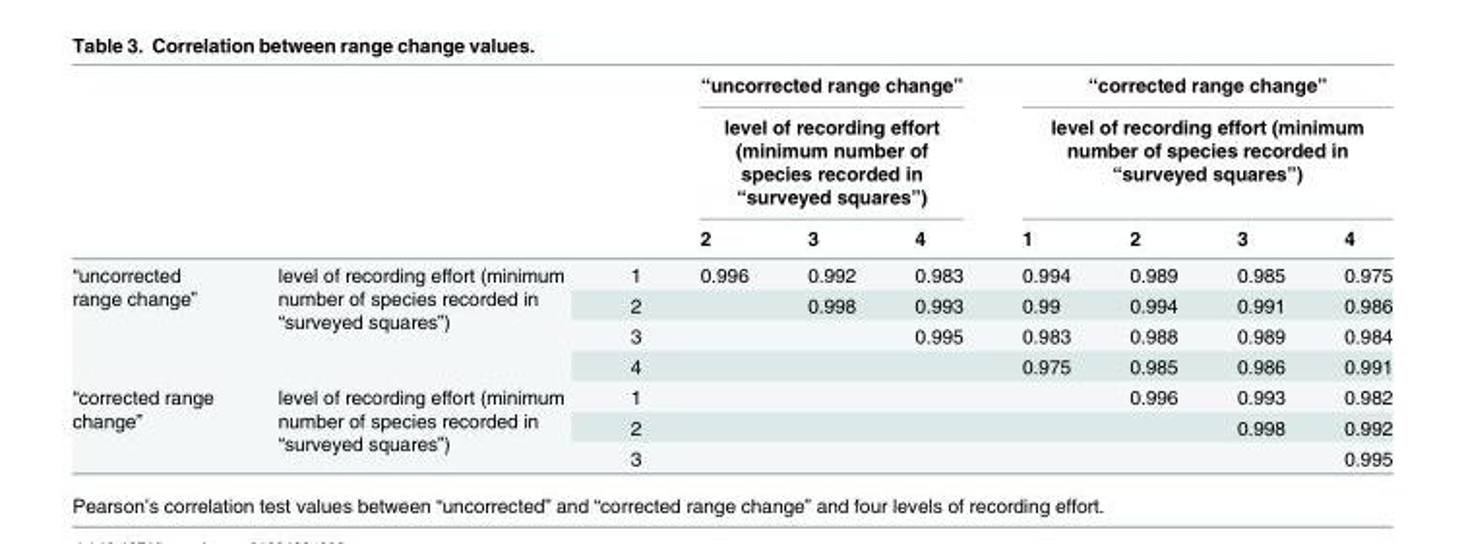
<table><thead><tr><td rowspan="3"></td><td rowspan="3"></td><td rowspan="3"></td><td rowspan="2" colspan="3">“uncorrected range change” level of recording effort (minimum number of species recorded in “surveyed squares”)</td><td rowspan="2" colspan="4">“corrected range change” level of recording effort (minimum number of species recorded in “surveyed squares”)</td></tr><tr></tr><tr><td>2</td><td>3</td><td>4</td><td>1</td><td>2</td><td>3</td><td>4</td></tr></thead><tbody><tr><td rowspan="4">“uncorrected range change”</td><td rowspan="4">level of recording effort (minimum number of species recorded in “surveyed squares”)</td><td>1</td><td>0.996</td><td>0.992</td><td>0.983</td><td>0.994</td><td>0.989</td><td>0.985</td><td>0.975</td></tr><tr><td>2</td><td></td><td>0.998</td><td>0.993</td><td>0.99</td><td>0.994</td><td>0.991</td><td>0.986</td></tr><tr><td>3</td><td></td><td></td><td>0.995</td><td>0.983</td><td>0.988</td><td>0.989</td><td>0.984</td></tr><tr><td>4</td><td></td><td></td><td></td><td>0.975</td><td>0.985</td><td>0.986</td><td>0.991</td></tr><tr><td rowspan="3">“corrected range change”</td><td rowspan="3">level of recording effort (minimum number of species recorded in “surveyed squares”)</td><td>1</td><td></td><td></td><td></td><td></td><td>0.996</td><td>0.993</td><td>0.982</td></tr><tr><td>2</td><td></td><td></td><td></td><td></td><td></td><td>0.998</td><td>0.992</td></tr><tr><td>3</td><td></td><td></td><td></td><td></td><td></td><td></td><td>0.995</td></tr></tbody></table>